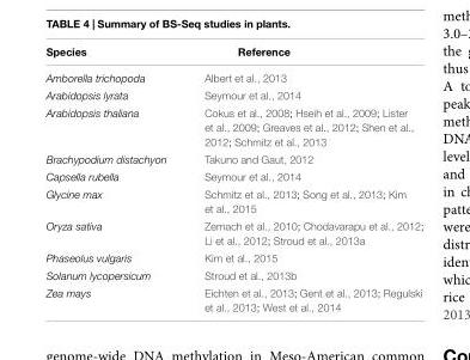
<table><thead><tr><td>Species</td><td>Reference</td></tr></thead><tbody><tr><td>Amborella trichopoda</td><td>Albert et al., 2013</td></tr><tr><td>Arabidopsis lyrata</td><td>Seymour et al., 2014</td></tr><tr><td>Arabidopsis thaliana</td><td>Cokus et al., 2008; Hseih et al., 2009; Lister et al., 2009; Greaves et al., 2012; Shen et al., 2012; Schmitz et al., 2013</td></tr><tr><td>Brachypodium distachyon</td><td>Takuno and Gaut, 2012</td></tr><tr><td>Capsella rubella</td><td>Seymour et al., 2014</td></tr><tr><td>Glycine max</td><td>Schmitz et al., 2013; Song et al., 2013; Kim et al., 2015</td></tr><tr><td>Oryza sativa</td><td>Zemach et al., 2010; Chodavarapu et al., 2012; Li et al., 2012; Stroud et al., 2013a</td></tr><tr><td>Phaseolus vulgaris</td><td>Kim et al., 2015</td></tr><tr><td>Solanum lycopersicum</td><td>Stroud et al., 2013b</td></tr><tr><td>Zea mays</td><td>Eichten et al., 2013; Gent et al., 2013; Regulski et al., 2013; West et al., 2014</td></tr></tbody></table>